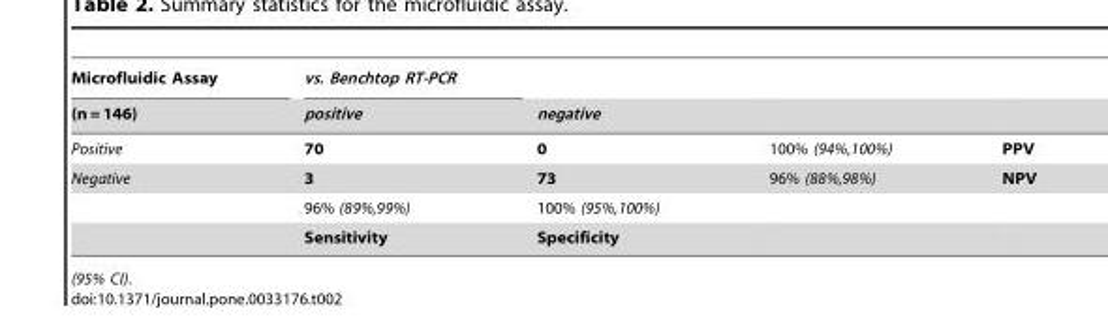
<table><thead><tr><td rowspan="2">Microfluidic Assay (n = 146)</td><td rowspan="2">vs. Benchtop RT-PCR positive</td><td rowspan="2">negative</td><td rowspan="2"></td><td rowspan="2"></td></tr><tr></tr></thead><tbody><tr><td>Positive</td><td>70</td><td>0</td><td>100% (94%,100%)</td><td>PPV</td></tr><tr><td rowspan="3">Negative</td><td>3</td><td>73</td><td>96% (88%,98%)</td><td>NPV</td></tr><tr><td>96% (89%,99%)</td><td>100% (95%,100%)</td><td></td><td></td></tr><tr><td>Sensitivity</td><td>Specificity</td><td></td><td></td></tr></tbody></table>